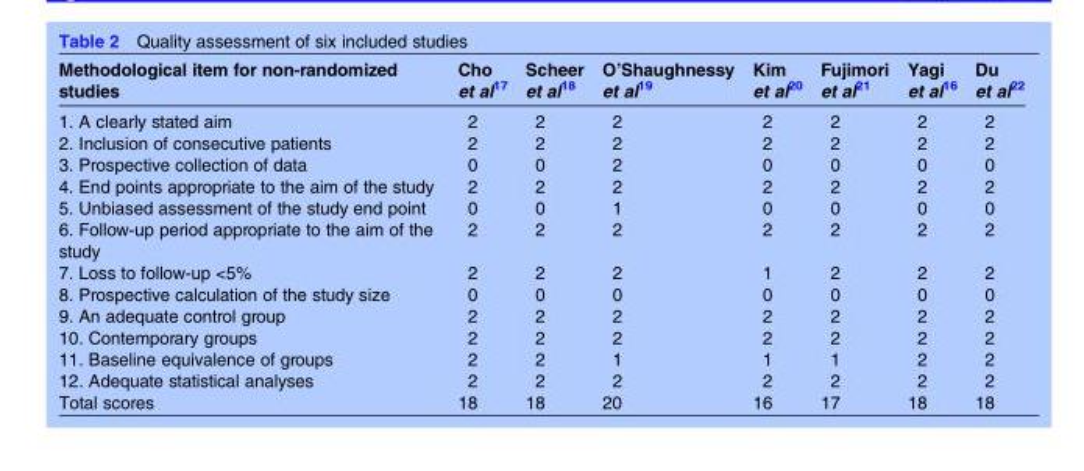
<table><thead><tr><td>Methodological item for non-randomized studies</td><td>Cho et al<sup>17</sup></td><td>Scheer et al<sup>18</sup></td><td>O’Shaughnessy et al<sup>19</sup></td><td>Kim et al<sup>20</sup></td><td>Fujimori et al<sup>21</sup></td><td>Yagi et al<sup>16</sup></td><td>Du et al<sup>22</sup></td></tr></thead><tbody><tr><td>1. A clearly stated aim</td><td>2</td><td>2</td><td>2</td><td>2</td><td>2</td><td>2</td><td>2</td></tr><tr><td>2. Inclusion of consecutive patients</td><td>2</td><td>2</td><td>2</td><td>2</td><td>2</td><td>2</td><td>2</td></tr><tr><td>3. Prospective collection of data</td><td>0</td><td>0</td><td>2</td><td>0</td><td>0</td><td>0</td><td>0</td></tr><tr><td>4. End points appropriate to the aim of the study</td><td>2</td><td>2</td><td>2</td><td>2</td><td>2</td><td>2</td><td>2</td></tr><tr><td>5. Unbiased assessment of the study end point</td><td>0</td><td>0</td><td>1</td><td>0</td><td>0</td><td>0</td><td>0</td></tr><tr><td>6. Follow-up period appropriate to the aim of the study</td><td>2</td><td>2</td><td>2</td><td>2</td><td>2</td><td>2</td><td>2</td></tr><tr><td>7. Loss to follow-up &lt;5%</td><td>2</td><td>2</td><td>2</td><td>1</td><td>2</td><td>2</td><td>2</td></tr><tr><td>8. Prospective calculation of the study size</td><td>0</td><td>0</td><td>0</td><td>0</td><td>0</td><td>0</td><td>0</td></tr><tr><td>9. An adequate control group</td><td>2</td><td>2</td><td>2</td><td>2</td><td>2</td><td>2</td><td>2</td></tr><tr><td>10. Contemporary groups</td><td>2</td><td>2</td><td>2</td><td>2</td><td>2</td><td>2</td><td>2</td></tr><tr><td>11. Baseline equivalence of groups</td><td>2</td><td>2</td><td>1</td><td>1</td><td>1</td><td>2</td><td>2</td></tr><tr><td>12. Adequate statistical analyses</td><td>2</td><td>2</td><td>2</td><td>2</td><td>2</td><td>2</td><td>2</td></tr><tr><td>Total scores</td><td>18</td><td>18</td><td>20</td><td>16</td><td>17</td><td>18</td><td>18</td></tr></tbody></table>